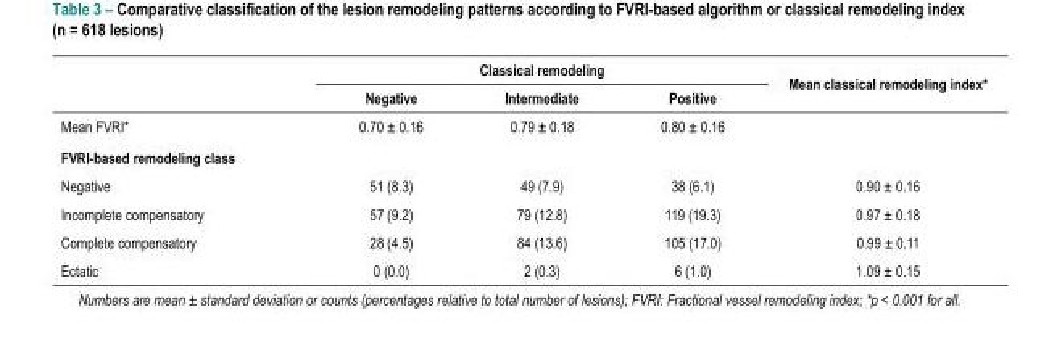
<table><thead><tr><td rowspan="2"></td><td colspan="3">Classical remodeling</td><td rowspan="2">Mean classical remodeling index*</td></tr><tr><td>Negative</td><td>Intermediate</td><td>Positive</td></tr></thead><tbody><tr><td>Mean FVRI*</td><td>0.70 ± 0.16</td><td>0.79 ± 0.18</td><td>0.80 ± 0.16</td><td></td></tr><tr><td colspan="5">FVRI-based remodeling class</td></tr><tr><td>Negative</td><td>51 (8.3)</td><td>49 (7.9)</td><td>38 (6.1)</td><td>0.90 ± 0.16</td></tr><tr><td>Incomplete compensatory</td><td>57 (9.2)</td><td>79 (12.8)</td><td>119 (19.3)</td><td>0.97 ± 0.18</td></tr><tr><td>Complete compensatory</td><td>28 (4.5)</td><td>84 (13.6)</td><td>105 (17.0)</td><td>0.99 ± 0.11</td></tr><tr><td>Ectatic</td><td>0 (0.0)</td><td>2 (0.3)</td><td>6 (1.0)</td><td>1.09 ± 0.15</td></tr></tbody></table>